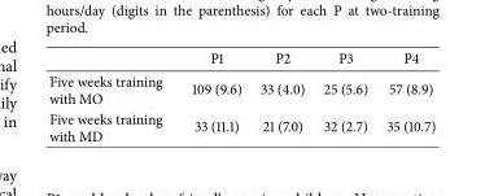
<table><thead><tr><td></td><td>P1</td><td>P2</td><td>P3</td><td>P4</td></tr></thead><tbody><tr><td>Five weeks training with MO</td><td>109 (9.6)</td><td>33 (4.0)</td><td>25 (5.6)</td><td>57 (8.9)</td></tr><tr><td>Five weeks training with MD</td><td>33 (11.1)</td><td>21 (7.0)</td><td>32 (2.7)</td><td>35 (10.7)</td></tr></tbody></table>